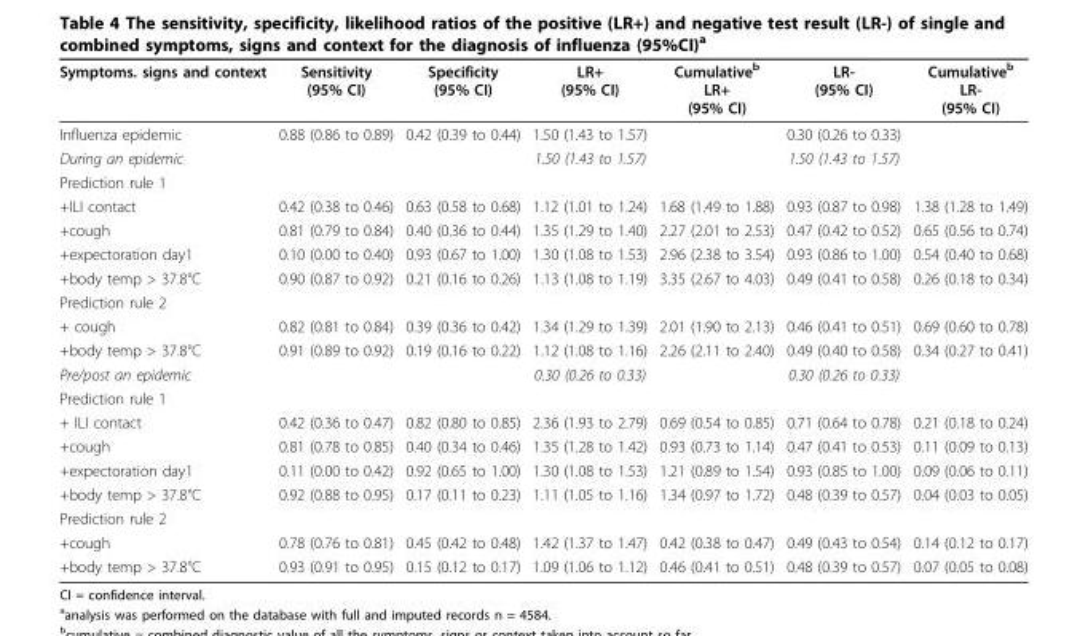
<table><thead><tr><td>Symptoms. signs and context</td><td>Sensitivity (95% CI)</td><td>Specificity (95% CI)</td><td>LR+ (95% CI)</td><td>Cumulative<sup>b</sup> LR+ (95% CI)</td><td>LR- (95% CI)</td><td>Cumulative<sup>b</sup> LR- (95% CI)</td></tr></thead><tbody><tr><td>Influenza epidemic</td><td>0.88 (0.86 to 0.89)</td><td>0.42 (0.39 to 0.44)</td><td>1.50 (1.43 to 1.57)</td><td></td><td>0.30 (0.26 to 0.33)</td><td></td></tr><tr><td>During an epidemic</td><td></td><td></td><td>1.50 (1.43 to 1.57)</td><td></td><td>1.50 (1.43 to 1.57)</td><td></td></tr><tr><td colspan="7">Prediction rule 1</td></tr><tr><td>+ILI contact</td><td>0.42 (0.38 to 0.46)</td><td>0.63 (0.58 to 0.68)</td><td>1.12 (1.01 to 1.24)</td><td>1.68 (1.49 to 1.88)</td><td>0.93 (0.87 to 0.98)</td><td>1.38 (1.28 to 1.49)</td></tr><tr><td>+cough</td><td>0.81 (0.79 to 0.84)</td><td>0.40 (0.36 to 0.44)</td><td>1.35 (1.29 to 1.40)</td><td>2.27 (2.01 to 2.53)</td><td>0.47 (0.42 to 0.52)</td><td>0.65 (0.56 to 0.74)</td></tr><tr><td>+expectoration day1</td><td>0.10 (0.00 to 0.40)</td><td>0.93 (0.67 to 1.00)</td><td>1.30 (1.08 to 1.53)</td><td>2.96 (2.38 to 3.54)</td><td>0.93 (0.86 to 1.00)</td><td>0.54 (0.40 to 0.68)</td></tr><tr><td>+body temp &gt; 37.8°C</td><td>0.90 (0.87 to 0.92)</td><td>0.21 (0.16 to 0.26)</td><td>1.13 (1.08 to 1.19)</td><td>3.35 (2.67 to 4.03)</td><td>0.49 (0.41 to 0.58)</td><td>0.26 (0.18 to 0.34)</td></tr><tr><td colspan="7">Prediction rule 2</td></tr><tr><td>+ cough</td><td>0.82 (0.81 to 0.84)</td><td>0.39 (0.36 to 0.42)</td><td>1.34 (1.29 to 1.39)</td><td>2.01 (1.90 to 2.13)</td><td>0.46 (0.41 to 0.51)</td><td>0.69 (0.60 to 0.78)</td></tr><tr><td>+body temp &gt; 37.8°C</td><td>0.91 (0.89 to 0.92)</td><td>0.19 (0.16 to 0.22)</td><td>1.12 (1.08 to 1.16)</td><td>2.26 (2.11 to 2.40)</td><td>0.49 (0.40 to 0.58)</td><td>0.34 (0.27 to 0.41)</td></tr><tr><td>Pre/post an epidemic</td><td></td><td></td><td>0.30 (0.26 to 0.33)</td><td></td><td>0.30 (0.26 to 0.33)</td><td></td></tr><tr><td colspan="7">Prediction rule 1</td></tr><tr><td>+ ILI contact</td><td>0.42 (0.36 to 0.47)</td><td>0.82 (0.80 to 0.85)</td><td>2.36 (1.93 to 2.79)</td><td>0.69 (0.54 to 0.85)</td><td>0.71 (0.64 to 0.78)</td><td>0.21 (0.18 to 0.24)</td></tr><tr><td>+cough</td><td>0.81 (0.78 to 0.85)</td><td>0.40 (0.34 to 0.46)</td><td>1.35 (1.28 to 1.42)</td><td>0.93 (0.73 to 1.14)</td><td>0.47 (0.41 to 0.53)</td><td>0.11 (0.09 to 0.13)</td></tr><tr><td>+expectoration day1</td><td>0.11 (0.00 to 0.42)</td><td>0.92 (0.65 to 1.00)</td><td>1.30 (1.08 to 1.53)</td><td>1.21 (0.89 to 1.54)</td><td>0.93 (0.85 to 1.00)</td><td>0.09 (0.06 to 0.11)</td></tr><tr><td>+body temp &gt; 37.8°C</td><td>0.92 (0.88 to 0.95)</td><td>0.17 (0.11 to 0.23)</td><td>1.11 (1.05 to 1.16)</td><td>1.34 (0.97 to 1.72)</td><td>0.48 (0.39 to 0.57)</td><td>0.04 (0.03 to 0.05)</td></tr><tr><td colspan="7">Prediction rule 2</td></tr><tr><td>+cough</td><td>0.78 (0.76 to 0.81)</td><td>0.45 (0.42 to 0.48)</td><td>1.42 (1.37 to 1.47)</td><td>0.42 (0.38 to 0.47)</td><td>0.49 (0.43 to 0.54)</td><td>0.14 (0.12 to 0.17)</td></tr><tr><td>+body temp &gt; 37.8°C</td><td>0.93 (0.91 to 0.95)</td><td>0.15 (0.12 to 0.17)</td><td>1.09 (1.06 to 1.12)</td><td>0.46 (0.41 to 0.51)</td><td>0.48 (0.39 to 0.57)</td><td>0.07 (0.05 to 0.08)</td></tr></tbody></table>